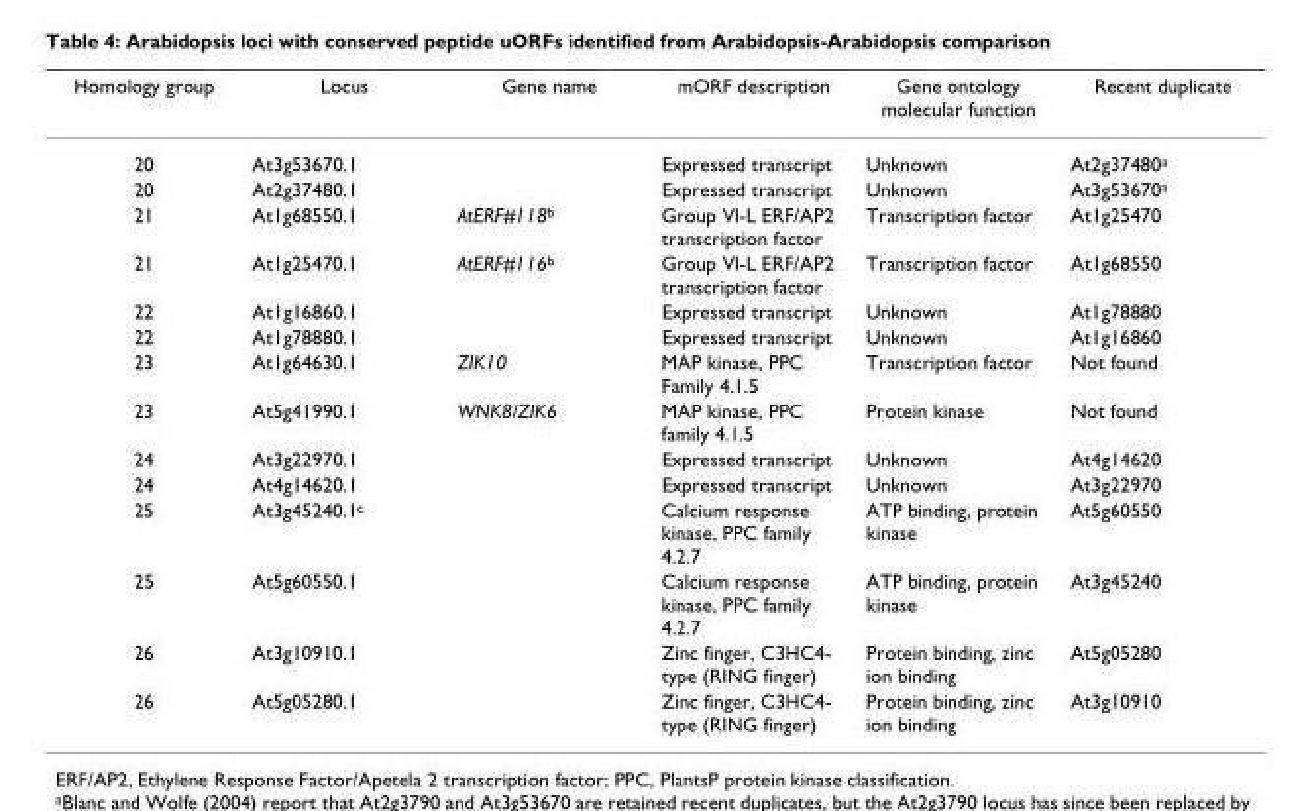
<table><thead><tr><td>Homology group</td><td>Locus</td><td>Gene name</td><td>mORF description</td><td>Gene ontology molecular function</td><td>Recent duplicate</td></tr></thead><tbody><tr><td>20</td><td>At3g53670.1</td><td></td><td>Expressed transcript</td><td>Unknown</td><td>At2g37480<sup>a</sup></td></tr><tr><td>20</td><td>At2g37480.1</td><td></td><td>Expressed transcript</td><td>Unknown</td><td>At3g53670<sup>a</sup></td></tr><tr><td>21</td><td>At1g68550.1</td><td>AtERF#118<sup>b</sup></td><td>Group VI-L ERF/AP2 transcription factor</td><td>Transcription factor</td><td>At1g25470</td></tr><tr><td>21</td><td>At1g25470.1</td><td>AtERF#116<sup>b</sup></td><td>Group VI-L ERF/AP2 transcription factor</td><td>Transcription factor</td><td>At1g68550</td></tr><tr><td>22</td><td>At1g16860.1</td><td></td><td>Expressed transcript</td><td>Unknown</td><td>At1g78880</td></tr><tr><td>22</td><td>At1g78880.1</td><td></td><td>Expressed transcript</td><td>Unknown</td><td>At1g16860</td></tr><tr><td>23</td><td>At1g64630.1</td><td>ZIK10</td><td>MAP kinase, PPC Family 4.1.5</td><td>Transcription factor</td><td>Not found</td></tr><tr><td>23</td><td>At5g41990.1</td><td>WNK8/ZIK6</td><td>MAP kinase, PPC family 4.1.5</td><td>Protein kinase</td><td>Not found</td></tr><tr><td>24</td><td>At3g22970.1</td><td></td><td>Expressed transcript</td><td>Unknown</td><td>At4g14620</td></tr><tr><td>24</td><td>At4g14620.1</td><td></td><td>Expressed transcript</td><td>Unknown</td><td>At3g22970</td></tr><tr><td>25</td><td>At3g45240.1<sup>c</sup></td><td></td><td>Calcium response kinase, PPC family 4.2.7</td><td>ATP binding, protein kinase</td><td>At5g60550</td></tr><tr><td>25</td><td>At5g60550.1</td><td></td><td>Calcium response kinase, PPC family 4.2.7</td><td>ATP binding, protein kinase</td><td>At3g45240</td></tr><tr><td>26</td><td>At3g10910.1</td><td></td><td>Zinc finger, C3HC4- type (RING finger)</td><td>Protein binding, zinc ion binding</td><td>At5g05280</td></tr><tr><td>26</td><td>At5g05280.1</td><td></td><td>Zinc finger, C3HC4- type (RING finger)</td><td>Protein binding, zinc ion binding</td><td>At3g10910</td></tr></tbody></table>